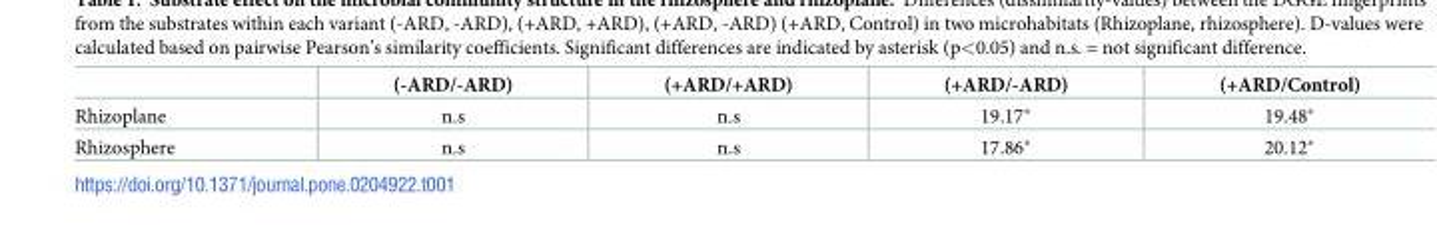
<table><thead><tr><td></td><td>(-ARD/-ARD)</td><td>(+ARD/+ARD)</td><td>(+ARD/-ARD)</td><td>(+ARD/Control)</td></tr></thead><tbody><tr><td>Rhizoplane</td><td>n.s</td><td>n.s</td><td>19.17*</td><td>19.48*</td></tr><tr><td>Rhizosphere</td><td>n.s</td><td>n.s</td><td>17.86*</td><td>20.12*</td></tr></tbody></table>